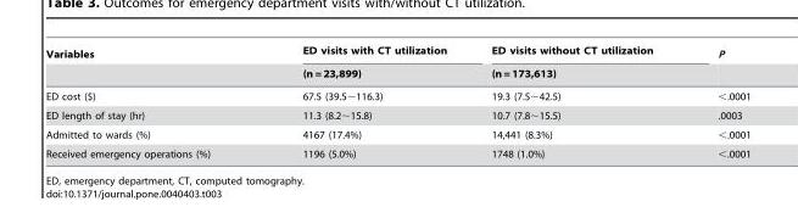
<table><thead><tr><td rowspan="2">Variables</td><td rowspan="2">ED visits with CT utilization (n = 23,899)</td><td rowspan="2">ED visits without CT utilization (n = 173,613)</td><td rowspan="2">P</td></tr><tr></tr></thead><tbody><tr><td>ED cost ($)</td><td>67.5 (39.5∼116.3)</td><td>19.3 (7.5∼42.5)</td><td>&lt;.0001</td></tr><tr><td>ED length of stay (hr)</td><td>11.3 (8.2∼15.8)</td><td>10.7 (7.8∼15.5)</td><td>.0003</td></tr><tr><td>Admitted to wards (%)</td><td>4167 (17.4%)</td><td>14,441 (8.3%)</td><td>&lt;.0001</td></tr><tr><td>Received emergency operations (%)</td><td>1196 (5.0%)</td><td>1748 (1.0%)</td><td>&lt;.0001</td></tr></tbody></table>